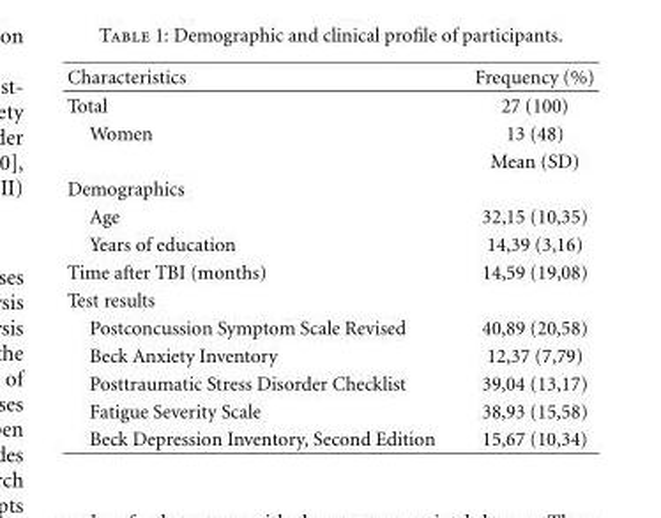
<table><thead><tr><td>Characteristics</td><td>Frequency (%)</td></tr></thead><tbody><tr><td>Total</td><td>27 (100)</td></tr><tr><td rowspan="2">Women</td><td>13 (48)</td></tr><tr><td>Mean (SD)</td></tr><tr><td colspan="2">Demographics</td></tr><tr><td>Age</td><td>32,15 (10,35)</td></tr><tr><td>Years of education</td><td>14,39 (3,16)</td></tr><tr><td>Time after TBI (months)</td><td>14,59 (19,08)</td></tr><tr><td colspan="2">Test results</td></tr><tr><td>Postconcussion Symptom Scale Revised</td><td>40,89 (20,58)</td></tr><tr><td>Beck Anxiety Inventory</td><td>12,37 (7,79)</td></tr><tr><td>Posttraumatic Stress Disorder Checklist</td><td>39,04 (13,17)</td></tr><tr><td>Fatigue Severity Scale</td><td>38,93 (15,58)</td></tr><tr><td>Beck Depression Inventory, Second Edition</td><td>15,67 (10,34)</td></tr></tbody></table>